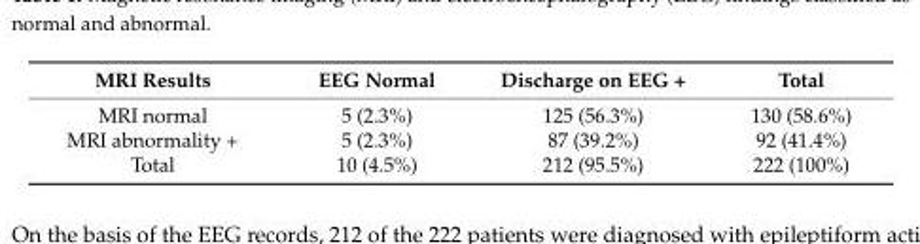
<table><thead><tr><td>MRI Results</td><td>EEG Normal</td><td>Discharge on EEG +</td><td>Total</td></tr></thead><tbody><tr><td>MRI normal</td><td>5 (2.3%)</td><td>125 (56.3%)</td><td>130 (58.6%)</td></tr><tr><td>MRI abnormality +</td><td>5 (2.3%)</td><td>87 (39.2%)</td><td>92 (41.4%)</td></tr><tr><td>Total</td><td>10 (4.5%)</td><td>212 (95.5%)</td><td>222 (100%)</td></tr></tbody></table>